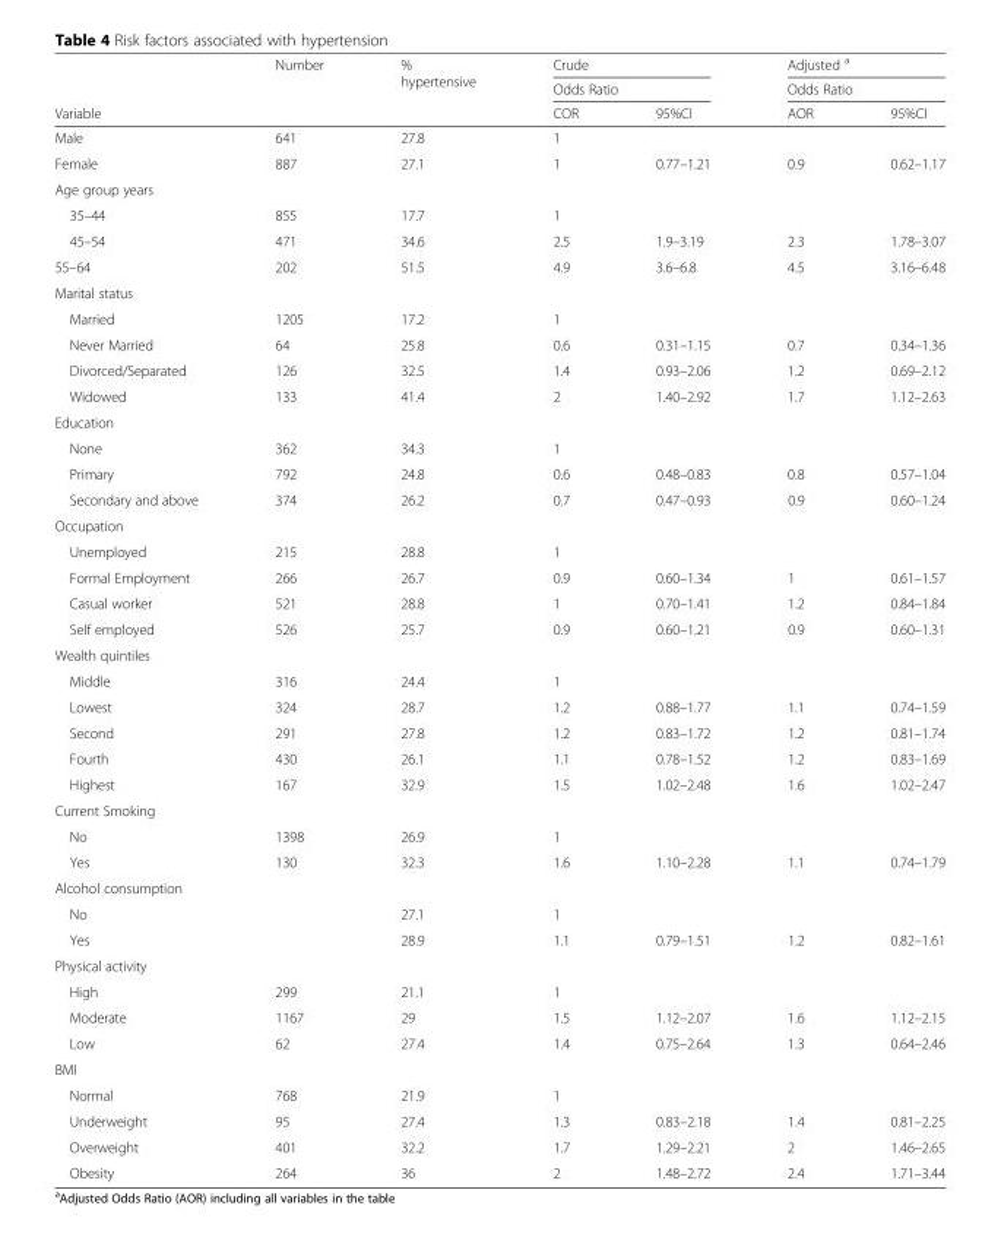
<table><thead><tr><td rowspan="3">Variable</td><td rowspan="3">Number</td><td rowspan="3">% hypertensive</td><td rowspan="2" colspan="2">Crude Odds Ratio</td><td rowspan="2" colspan="2">Adjusted <sup>a</sup> Odds Ratio</td></tr><tr></tr><tr><td>COR</td><td>95%CI</td><td>AOR</td><td>95%CI</td></tr></thead><tbody><tr><td>Male</td><td>641</td><td>27.8</td><td>1</td><td></td><td></td><td></td></tr><tr><td>Female</td><td>887</td><td>27.1</td><td>1</td><td>0.77–1.21</td><td>0.9</td><td>0.62–1.17</td></tr><tr><td colspan="7">Age group years</td></tr><tr><td>35–44</td><td>855</td><td>17.7</td><td>1</td><td></td><td></td><td></td></tr><tr><td>45–54</td><td>471</td><td>34.6</td><td>2.5</td><td>1.9–3.19</td><td>2.3</td><td>1.78–3.07</td></tr><tr><td>55–64</td><td>202</td><td>51.5</td><td>4.9</td><td>3.6–6.8</td><td>4.5</td><td>3.16–6.48</td></tr><tr><td colspan="7">Marital status</td></tr><tr><td>Married</td><td>1205</td><td>17.2</td><td>1</td><td></td><td></td><td></td></tr><tr><td>Never Married</td><td>64</td><td>25.8</td><td>0.6</td><td>0.31–1.15</td><td>0.7</td><td>0.34–1.36</td></tr><tr><td>Divorced/Separated</td><td>126</td><td>32.5</td><td>1.4</td><td>0.93–2.06</td><td>1.2</td><td>0.69–2.12</td></tr><tr><td>Widowed</td><td>133</td><td>41.4</td><td>2</td><td>1.40–2.92</td><td>1.7</td><td>1.12–2.63</td></tr><tr><td colspan="7">Education</td></tr><tr><td>None</td><td>362</td><td>34.3</td><td>1</td><td></td><td></td><td></td></tr><tr><td>Primary</td><td>792</td><td>24.8</td><td>0.6</td><td>0.48–0.83</td><td>0.8</td><td>0.57–1.04</td></tr><tr><td>Secondary and above</td><td>374</td><td>26.2</td><td>0.7</td><td>0.47–0.93</td><td>0.9</td><td>0.60–1.24</td></tr><tr><td colspan="7">Occupation</td></tr><tr><td>Unemployed</td><td>215</td><td>28.8</td><td>1</td><td></td><td></td><td></td></tr><tr><td>Formal Employment</td><td>266</td><td>26.7</td><td>0.9</td><td>0.60–1.34</td><td>1</td><td>0.61–1.57</td></tr><tr><td>Casual worker</td><td>521</td><td>28.8</td><td>1</td><td>0.70–1.41</td><td>1.2</td><td>0.84–1.84</td></tr><tr><td>Self employed</td><td>526</td><td>25.7</td><td>0.9</td><td>0.60–1.21</td><td>0.9</td><td>0.60–1.31</td></tr><tr><td colspan="7">Wealth quintiles</td></tr><tr><td>Middle</td><td>316</td><td>24.4</td><td>1</td><td></td><td></td><td></td></tr><tr><td>Lowest</td><td>324</td><td>28.7</td><td>1.2</td><td>0.88–1.77</td><td>1.1</td><td>0.74–1.59</td></tr><tr><td>Second</td><td>291</td><td>27.8</td><td>1.2</td><td>0.83–1.72</td><td>1.2</td><td>0.81–1.74</td></tr><tr><td>Fourth</td><td>430</td><td>26.1</td><td>1.1</td><td>0.78–1.52</td><td>1.2</td><td>0.83–1.69</td></tr><tr><td>Highest</td><td>167</td><td>32.9</td><td>1.5</td><td>1.02–2.48</td><td>1.6</td><td>1.02–2.47</td></tr><tr><td colspan="7">Current Smoking</td></tr><tr><td>No</td><td>1398</td><td>26.9</td><td>1</td><td></td><td></td><td></td></tr><tr><td>Yes</td><td>130</td><td>32.3</td><td>1.6</td><td>1.10–2.28</td><td>1.1</td><td>0.74–1.79</td></tr><tr><td colspan="7">Alcohol consumption</td></tr><tr><td>No</td><td></td><td>27.1</td><td>1</td><td></td><td></td><td></td></tr><tr><td>Yes</td><td></td><td>28.9</td><td>1.1</td><td>0.79–1.51</td><td>1.2</td><td>0.82–1.61</td></tr><tr><td colspan="7">Physical activity</td></tr><tr><td>High</td><td>299</td><td>21.1</td><td>1</td><td></td><td></td><td></td></tr><tr><td>Moderate</td><td>1167</td><td>29</td><td>1.5</td><td>1.12–2.07</td><td>1.6</td><td>1.12–2.15</td></tr><tr><td>Low</td><td>62</td><td>27.4</td><td>1.4</td><td>0.75–2.64</td><td>1.3</td><td>0.64–2.46</td></tr><tr><td colspan="7">BMI</td></tr><tr><td>Normal</td><td>768</td><td>21.9</td><td>1</td><td></td><td></td><td></td></tr><tr><td>Underweight</td><td>95</td><td>27.4</td><td>1.3</td><td>0.83–2.18</td><td>1.4</td><td>0.81–2.25</td></tr><tr><td>Overweight</td><td>401</td><td>32.2</td><td>1.7</td><td>1.29–2.21</td><td>2</td><td>1.46–2.65</td></tr><tr><td>Obesity</td><td>264</td><td>36</td><td>2</td><td>1.48–2.72</td><td>2.4</td><td>1.71–3.44</td></tr></tbody></table>